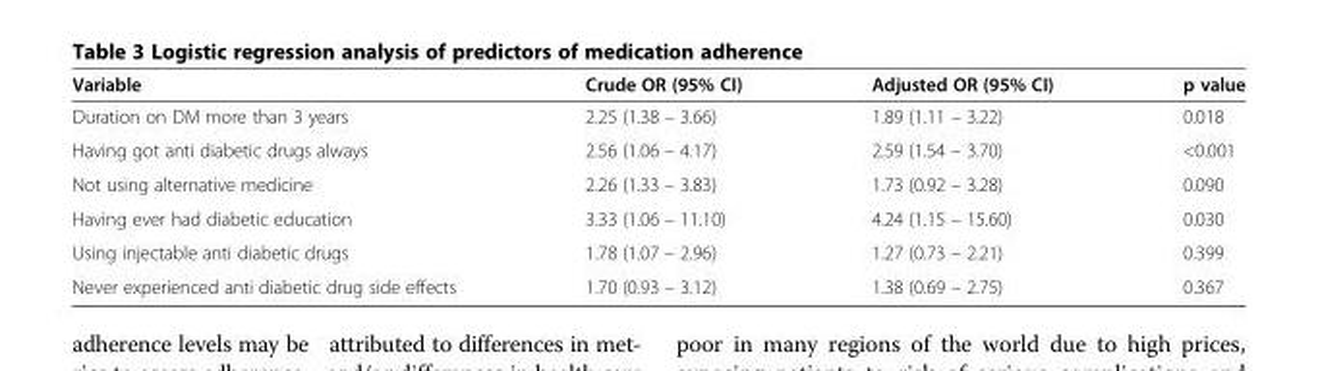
<table><thead><tr><td>Variable</td><td>Crude OR (95% CI)</td><td>Adjusted OR (95% CI)</td><td>p value</td></tr></thead><tbody><tr><td>Duration on DM more than 3 years</td><td>2.25 (1.38 – 3.66)</td><td>1.89 (1.11 – 3.22)</td><td>0.018</td></tr><tr><td>Having got anti diabetic drugs always</td><td>2.56 (1.06 – 4.17)</td><td>2.59 (1.54 – 3.70)</td><td>&lt;0.001</td></tr><tr><td>Not using alternative medicine</td><td>2.26 (1.33 – 3.83)</td><td>1.73 (0.92 – 3.28)</td><td>0.090</td></tr><tr><td>Having ever had diabetic education</td><td>3.33 (1.06 – 11.10)</td><td>4.24 (1.15 – 15.60)</td><td>0.030</td></tr><tr><td>Using injectable anti diabetic drugs</td><td>1.78 (1.07 – 2.96)</td><td>1.27 (0.73 – 2.21)</td><td>0.399</td></tr><tr><td>Never experienced anti diabetic drug side effects</td><td>1.70 (0.93 – 3.12)</td><td>1.38 (0.69 – 2.75)</td><td>0.367</td></tr></tbody></table>